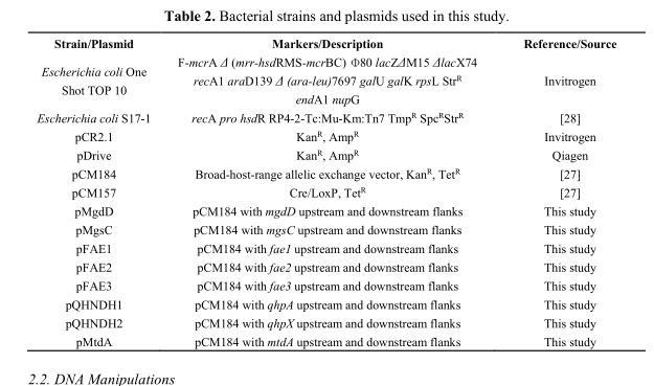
<table><thead><tr><td>Strain/Plasmid</td><td>Markers/Description</td><td>Reference/Source</td></tr></thead><tbody><tr><td>Escherichia coli One Shot TOP 10</td><td>F-mcrA Δ (mrr-hsdRMS-mcrBC) Φ80 lacZΔM15 ΔlacX74 recA1 araD139 Δ (ara-leu)7697 galU galK rpsL Str<sup>R</sup> endA1 nupG</td><td>Invitrogen</td></tr><tr><td>Escherichia coli S17-1</td><td>recA pro hsdR RP4-2-Tc:Mu-Km:Tn7 Tmp<sup>R</sup> Spc<sup>R</sup>Str<sup>R</sup></td><td>[28]</td></tr><tr><td>pCR2.1</td><td>Kan<sup>R</sup>, Amp<sup>R</sup></td><td>Invitrogen</td></tr><tr><td>pDrive</td><td>Kan<sup>R</sup>, Amp<sup>R</sup></td><td>Qiagen</td></tr><tr><td>pCM184</td><td>Broad-host-range allelic exchange vector, Kan<sup>R</sup>, Tet<sup>R</sup></td><td>[27]</td></tr><tr><td>pCM157</td><td>Cre/LoxP, Tet<sup>R</sup></td><td>[27]</td></tr><tr><td>pMgdD</td><td>pCM184 with mgdD upstream and downstream flanks</td><td>This study</td></tr><tr><td>pMgsC</td><td>pCM184 with mgsC upstream and downstream flanks</td><td>This study</td></tr><tr><td>pFAE1</td><td>pCM184 with fae1 upstream and downstream flanks</td><td>This study</td></tr><tr><td>pFAE2</td><td>pCM184 with fae2 upstream and downstream flanks</td><td>This study</td></tr><tr><td>pFAE3</td><td>pCM184 with fae3 upstream and downstream flanks</td><td>This study</td></tr><tr><td>pQHNDH1</td><td>pCM184 with qhpA upstream and downstream flanks</td><td>This study</td></tr><tr><td>pQHNDH2</td><td>pCM184 with qhpX upstream and downstream flanks</td><td>This study</td></tr><tr><td>pMtdA</td><td>pCM184 with mtdA upstream and downstream flanks</td><td>This study</td></tr></tbody></table>